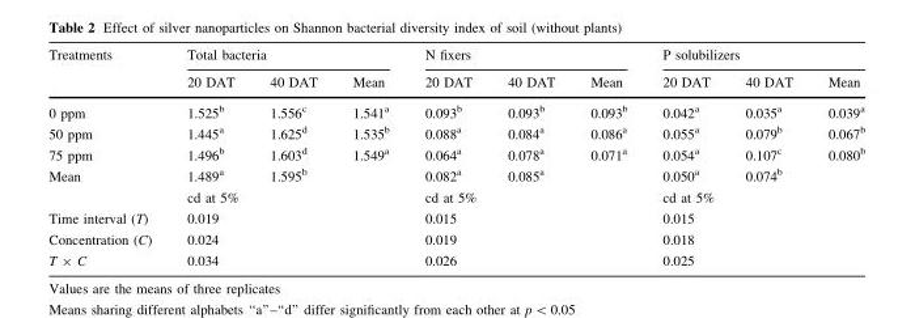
<table><thead><tr><td rowspan="2">Treatments</td><td colspan="3">Total bacteria</td><td colspan="3">N fixers</td><td colspan="3">P solubilizers</td></tr><tr><td>20 DAT</td><td>40 DAT</td><td>Mean</td><td>20 DAT</td><td>40 DAT</td><td>Mean</td><td>20 DAT</td><td>40 DAT</td><td>Mean</td></tr></thead><tbody><tr><td>0 ppm</td><td>1.525<sup>b</sup></td><td>1.556<sup>c</sup></td><td>1.541<sup>a</sup></td><td>0.093<sup>b</sup></td><td>0.093<sup>b</sup></td><td>0.093<sup>b</sup></td><td>0.042<sup>a</sup></td><td>0.035<sup>a</sup></td><td>0.039<sup>a</sup></td></tr><tr><td>50 ppm</td><td>1.445<sup>a</sup></td><td>1.625<sup>d</sup></td><td>1.535<sup>b</sup></td><td>0.088<sup>a</sup></td><td>0.084<sup>a</sup></td><td>0.086<sup>a</sup></td><td>0.055<sup>a</sup></td><td>0.079<sup>b</sup></td><td>0.067<sup>b</sup></td></tr><tr><td>75 ppm</td><td>1.496<sup>b</sup></td><td>1.603<sup>d</sup></td><td>1.549<sup>a</sup></td><td>0.064<sup>a</sup></td><td>0.078<sup>a</sup></td><td>0.071<sup>a</sup></td><td>0.054<sup>a</sup></td><td>0.107<sup>c</sup></td><td>0.080<sup>b</sup></td></tr><tr><td rowspan="2">Mean</td><td>1.489<sup>a</sup></td><td>1.595<sup>b</sup></td><td></td><td>0.082<sup>a</sup></td><td>0.085<sup>a</sup></td><td></td><td>0.050<sup>a</sup></td><td>0.074<sup>b</sup></td><td></td></tr><tr><td colspan="2">cd at 5%</td><td></td><td colspan="2">cd at 5%</td><td></td><td colspan="2">cd at 5%</td><td></td></tr><tr><td>Time interval (T)</td><td colspan="2">0.019</td><td></td><td colspan="2">0.015</td><td></td><td colspan="2">0.015</td><td></td></tr><tr><td>Concentration (C)</td><td colspan="2">0.024</td><td></td><td colspan="2">0.019</td><td></td><td colspan="2">0.018</td><td></td></tr><tr><td>T × C</td><td colspan="2">0.034</td><td></td><td colspan="2">0.026</td><td></td><td colspan="2">0.025</td><td></td></tr></tbody></table>